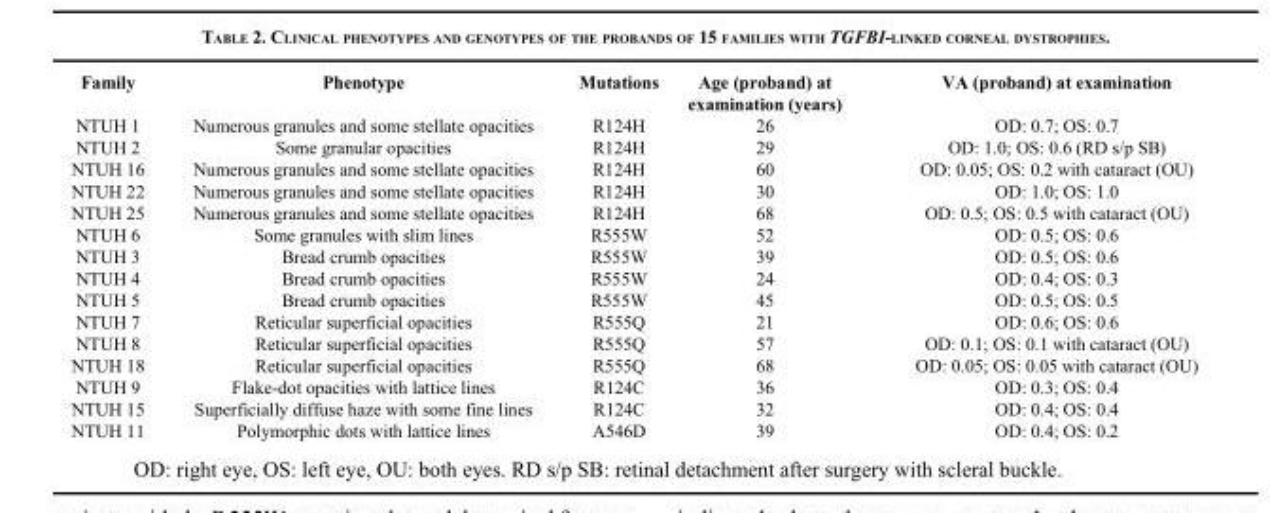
<table><thead><tr><td>Family</td><td>Phenotype</td><td>Mutations</td><td>Age (proband) at examination (years)</td><td>VA (proband) at examination</td></tr></thead><tbody><tr><td>NTUH 1</td><td>Numerous granules and some stellate opacities</td><td>R124H</td><td>26</td><td>OD: 0.7; OS: 0.7</td></tr><tr><td>NTUH 2</td><td>Some granular opacities</td><td>R124H</td><td>29</td><td>OD: 1.0; OS: 0.6 (RD s/p SB)</td></tr><tr><td>NTUH 16</td><td>Numerous granules and some stellate opacities</td><td>R124H</td><td>60</td><td>OD: 0.05; OS: 0.2 with cataract (OU)</td></tr><tr><td>NTUH 22</td><td>Numerous granules and some stellate opacities</td><td>R124H</td><td>30</td><td>OD: 1.0; OS: 1.0</td></tr><tr><td>NTUH 25</td><td>Numerous granules and some stellate opacities</td><td>R124H</td><td>68</td><td>OD: 0.5; OS: 0.5 with cataract (OU)</td></tr><tr><td>NTUH 6</td><td>Some granules with slim lines</td><td>R555W</td><td>52</td><td>OD: 0.5; OS: 0.6</td></tr><tr><td>NTUH 3</td><td>Bread crumb opacities</td><td>R555W</td><td>39</td><td>OD: 0.5; OS: 0.6</td></tr><tr><td>NTUH 4</td><td>Bread crumb opacities</td><td>R555W</td><td>24</td><td>OD: 0.4; OS: 0.3</td></tr><tr><td>NTUH 5</td><td>Bread crumb opacities</td><td>R555W</td><td>45</td><td>OD: 0.5; OS: 0.5</td></tr><tr><td>NTUH 7</td><td>Reticular superficial opacities</td><td>R555Q</td><td>21</td><td>OD: 0.6; OS: 0.6</td></tr><tr><td>NTUH 8</td><td>Reticular superficial opacities</td><td>R555Q</td><td>57</td><td>OD: 0.1; OS: 0.1 with cataract (OU)</td></tr><tr><td>NTUH 18</td><td>Reticular superficial opacities</td><td>R555Q</td><td>68</td><td>OD: 0.05; OS: 0.05 with cataract (OU)</td></tr><tr><td>NTUH 9</td><td>Flake-dot opacities with lattice lines</td><td>R124C</td><td>36</td><td>OD: 0.3; OS: 0.4</td></tr><tr><td>NTUH 15</td><td>Superficially diffuse haze with some fine lines</td><td>R124C</td><td>32</td><td>OD: 0.4; OS: 0.4</td></tr><tr><td>NTUH 11</td><td>Polymorphic dots with lattice lines</td><td>A546D</td><td>39</td><td>OD: 0.4; OS: 0.2</td></tr></tbody></table>